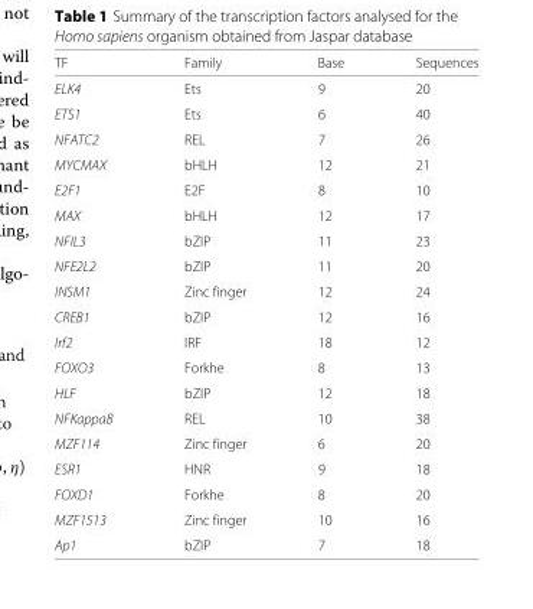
<table><thead><tr><td>TF</td><td>Family</td><td>Base</td><td>Sequences</td></tr></thead><tbody><tr><td>ELK4</td><td>Ets</td><td>9</td><td>20</td></tr><tr><td>ETS1</td><td>Ets</td><td>6</td><td>40</td></tr><tr><td>NFATC2</td><td>REL</td><td>7</td><td>26</td></tr><tr><td>MYCMAX</td><td>bHLH</td><td>12</td><td>21</td></tr><tr><td>E2F1</td><td>E2F</td><td>8</td><td>10</td></tr><tr><td>MAX</td><td>bHLH</td><td>12</td><td>17</td></tr><tr><td>NFIL3</td><td>bZIP</td><td>11</td><td>23</td></tr><tr><td>NFE2L2</td><td>bZIP</td><td>11</td><td>20</td></tr><tr><td>INSM1</td><td>Zinc finger</td><td>12</td><td>24</td></tr><tr><td>CREB1</td><td>bZIP</td><td>12</td><td>16</td></tr><tr><td>Irf2</td><td>IRF</td><td>18</td><td>12</td></tr><tr><td>FOXO3</td><td>Forkhe</td><td>8</td><td>13</td></tr><tr><td>HLF</td><td>bZIP</td><td>12</td><td>18</td></tr><tr><td>NFKappaB</td><td>REL</td><td>10</td><td>38</td></tr><tr><td>MZF114</td><td>Zinc finger</td><td>6</td><td>20</td></tr><tr><td>ESR1</td><td>HNR</td><td>9</td><td>18</td></tr><tr><td>FOXD1</td><td>Forkhe</td><td>8</td><td>20</td></tr><tr><td>MZF1513</td><td>Zinc finger</td><td>10</td><td>16</td></tr><tr><td>Ap1</td><td>bZIP</td><td>7</td><td>18</td></tr></tbody></table>